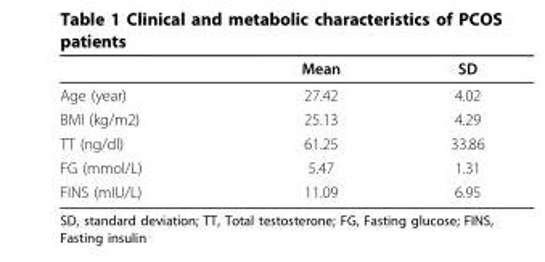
<table><thead><tr><td></td><td>Mean</td><td>SD</td></tr></thead><tbody><tr><td>Age (year)</td><td>27.42</td><td>4.02</td></tr><tr><td>BMI (kg/m2)</td><td>25.13</td><td>4.29</td></tr><tr><td>TT (ng/dl)</td><td>61.25</td><td>33.86</td></tr><tr><td>FG (mmol/L)</td><td>5.47</td><td>1.31</td></tr><tr><td>FINS (mIU/L)</td><td>11.09</td><td>6.95</td></tr></tbody></table>